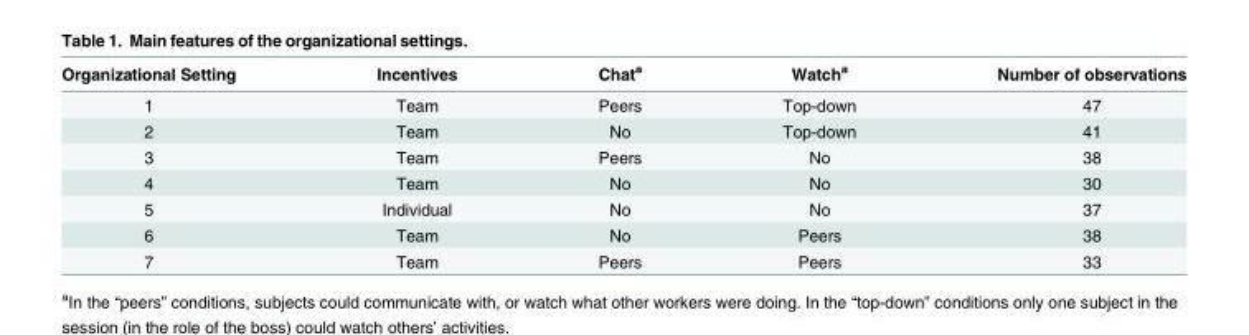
<table><thead><tr><td>Organizational Setting</td><td>Incentives</td><td>Chat<sup>a</sup></td><td>Watch<sup>a</sup></td><td>Number of observations</td></tr></thead><tbody><tr><td>1</td><td>Team</td><td>Peers</td><td>Top-down</td><td>47</td></tr><tr><td>2</td><td>Team</td><td>No</td><td>Top-down</td><td>41</td></tr><tr><td>3</td><td>Team</td><td>Peers</td><td>No</td><td>38</td></tr><tr><td>4</td><td>Team</td><td>No</td><td>No</td><td>30</td></tr><tr><td>5</td><td>Individual</td><td>No</td><td>No</td><td>37</td></tr><tr><td>6</td><td>Team</td><td>No</td><td>Peers</td><td>38</td></tr><tr><td>7</td><td>Team</td><td>Peers</td><td>Peers</td><td>33</td></tr></tbody></table>